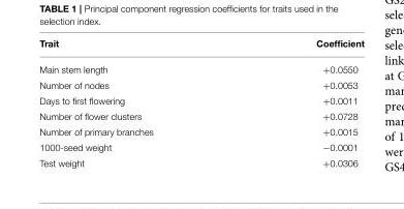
<table><thead><tr><td>Trait</td><td>Coefficient</td></tr></thead><tbody><tr><td>Main stem length</td><td>+0.0550</td></tr><tr><td>Number of nodes</td><td>+0.0053</td></tr><tr><td>Days to first flowering</td><td>+0.0011</td></tr><tr><td>Number of flower clusters</td><td>+0.0728</td></tr><tr><td>Number of primary branches</td><td>+0.0015</td></tr><tr><td>1000-seed weight</td><td>−0.0001</td></tr><tr><td>Test weight</td><td>+0.0306</td></tr></tbody></table>